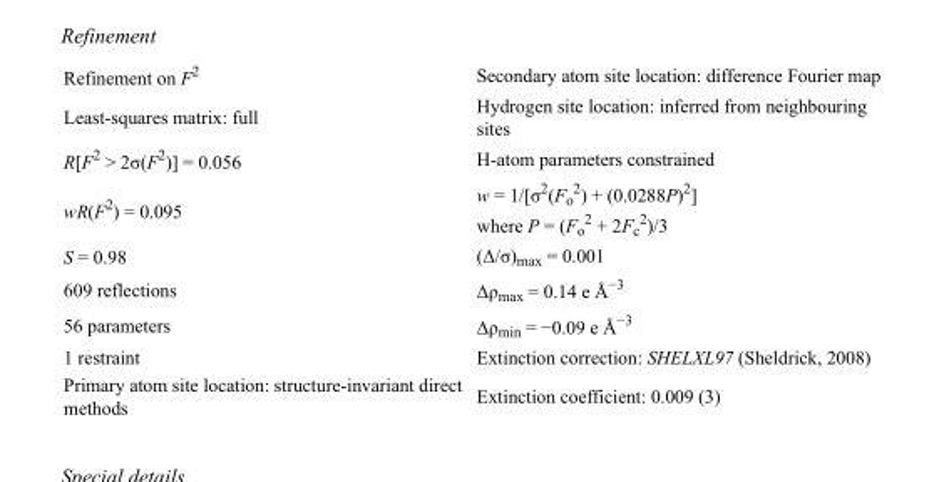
<table><tbody><tr><td>Refinement on F<sup>2</sup></td><td>Secondary atom site location: difference Fourier map</td></tr><tr><td>Least-squares matrix: full</td><td>Hydrogen site location: inferred from neighbouring sites</td></tr><tr><td>R[F<sup>2</sup> &gt; 2σ(F<sup>2</sup>)] = 0.056</td><td>H-atom parameters constrained</td></tr><tr><td>wR(F<sup>2</sup>) = 0.095</td><td>w = 1/[σ<sup>2</sup>(F<sub>o</sub> <sup>2</sup>) + (0.0288P)<sup>2</sup>] where P = (F<sub>o</sub> <sup>2</sup> + 2F<sub>c</sub> <sup>2</sup>)/3</td></tr><tr><td>S = 0.98</td><td>(Δ/σ)<sub>max</sub> = 0.001</td></tr><tr><td>609 reflections</td><td>Δρ<sub>max</sub> = 0.14 e Å<sup>−3</sup></td></tr><tr><td>56 parameters</td><td>Δρ<sub>min</sub> = −0.09 e Å<sup>−3</sup></td></tr><tr><td>1 restraint</td><td>Extinction correction: SHELXL97 (Sheldrick, 2008)</td></tr><tr><td>Primary atom site location: structure-invariant direct methods</td><td>Extinction coefficient: 0.009 (3)</td></tr></tbody></table>